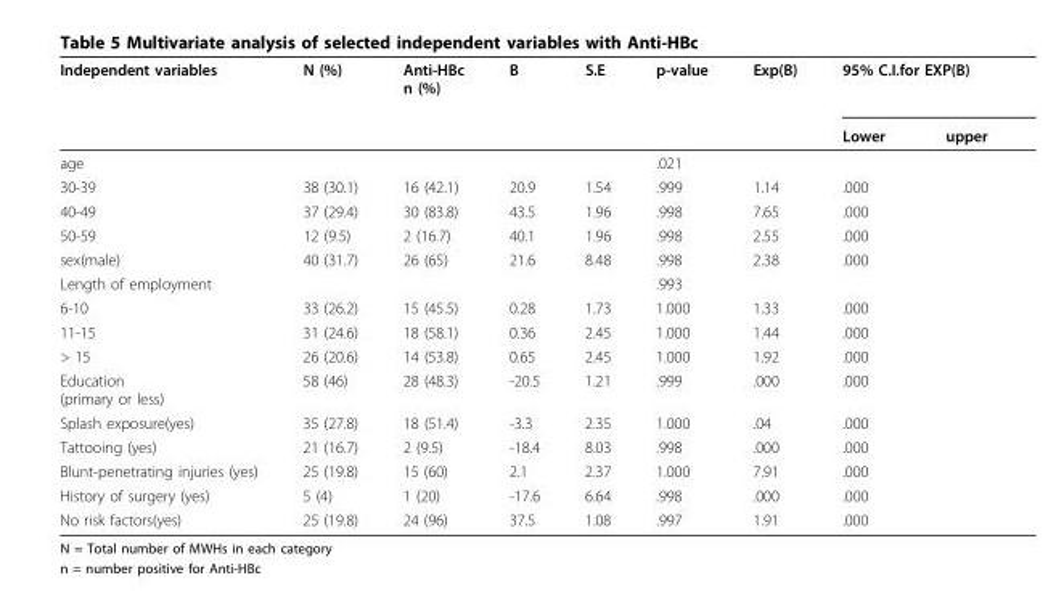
<table><thead><tr><td rowspan="2">Independent variables</td><td rowspan="2">N (%)</td><td rowspan="2">Anti-HBc n (%)</td><td rowspan="2">B</td><td rowspan="2">S.E</td><td rowspan="2">p-value</td><td rowspan="2">Exp(B)</td><td colspan="2">95% C.I.for EXP(B)</td></tr><tr><td>Lower</td><td>upper</td></tr></thead><tbody><tr><td>age</td><td></td><td></td><td></td><td></td><td>.021</td><td></td><td></td><td></td></tr><tr><td>30-39</td><td>38 (30.1)</td><td>16 (42.1)</td><td>20.9</td><td>1.54</td><td>.999</td><td>1.14</td><td>.000</td><td></td></tr><tr><td>40-49</td><td>37 (29.4)</td><td>30 (83.8)</td><td>43.5</td><td>1.96</td><td>.998</td><td>7.65</td><td>.000</td><td></td></tr><tr><td>50-59</td><td>12 (9.5)</td><td>2 (16.7)</td><td>40.1</td><td>1.96</td><td>.998</td><td>2.55</td><td>.000</td><td></td></tr><tr><td>sex(male)</td><td>40 (31.7)</td><td>26 (65)</td><td>21.6</td><td>8.48</td><td>.998</td><td>2.38</td><td>.000</td><td></td></tr><tr><td>Length of employment</td><td></td><td></td><td></td><td></td><td>.993</td><td></td><td></td><td></td></tr><tr><td>6-10</td><td>33 (26.2)</td><td>15 (45.5)</td><td>0.28</td><td>1.73</td><td>1.000</td><td>1.33</td><td>.000</td><td></td></tr><tr><td>11-15</td><td>31 (24.6)</td><td>18 (58.1)</td><td>0.36</td><td>2.45</td><td>1.000</td><td>1.44</td><td>.000</td><td></td></tr><tr><td>&gt; 15</td><td>26 (20.6)</td><td>14 (53.8)</td><td>0.65</td><td>2.45</td><td>1.000</td><td>1.92</td><td>.000</td><td></td></tr><tr><td>Education (primary or less)</td><td>58 (46)</td><td>28 (48.3)</td><td>-20.5</td><td>1.21</td><td>.999</td><td>.000</td><td>.000</td><td></td></tr><tr><td>Splash exposure(yes)</td><td>35 (27.8)</td><td>18 (51.4)</td><td>-3.3</td><td>2.35</td><td>1.000</td><td>.04</td><td>.000</td><td></td></tr><tr><td>Tattooing (yes)</td><td>21 (16.7)</td><td>2 (9.5)</td><td>-18.4</td><td>8.03</td><td>.998</td><td>.000</td><td>.000</td><td></td></tr><tr><td>Blunt-penetrating injuries (yes)</td><td>25 (19.8)</td><td>15 (60)</td><td>2.1</td><td>2.37</td><td>1.000</td><td>7.91</td><td>.000</td><td></td></tr><tr><td>History of surgery (yes)</td><td>5 (4)</td><td>1 (20)</td><td>-17.6</td><td>6.64</td><td>.998</td><td>.000</td><td>.000</td><td></td></tr><tr><td>No risk factors(yes)</td><td>25 (19.8)</td><td>24 (96)</td><td>37.5</td><td>1.08</td><td>.997</td><td>1.91</td><td>.000</td><td></td></tr></tbody></table>